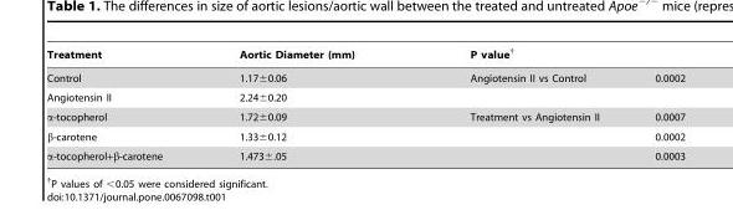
<table><thead><tr><td rowspan="2">Treatment Control</td><td rowspan="2">Aortic Diameter (mm) 1.17±0.06</td><td colspan="2">P value†</td></tr><tr><td>Angiotensin II vs Control</td><td>0.0002</td></tr></thead><tbody><tr><td>Angiotensin II</td><td>2.24±0.20</td><td></td><td></td></tr><tr><td>α-tocopherol</td><td>1.72±0.09</td><td>Treatment vs Angiotensin II</td><td>0.0007</td></tr><tr><td>β-carotene</td><td>1.33±0.12</td><td></td><td>0.0002</td></tr><tr><td>α-tocopherol+β-carotene</td><td>1.473±.05</td><td></td><td>0.0003</td></tr></tbody></table>